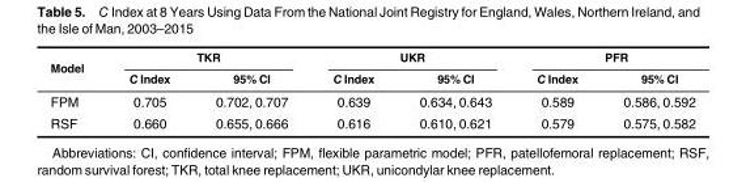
<table><thead><tr><td rowspan="2">Model</td><td colspan="2">TKR</td><td colspan="2">UKR</td><td colspan="2">PFR</td></tr><tr><td>C Index</td><td>95% CI</td><td>C Index</td><td>95% CI</td><td>C Index</td><td>95% CI</td></tr></thead><tbody><tr><td>FPM</td><td>0.705</td><td>0.702, 0.707</td><td>0.639</td><td>0.634, 0.643</td><td>0.589</td><td>0.586, 0.592</td></tr><tr><td>RSF</td><td>0.660</td><td>0.655, 0.666</td><td>0.616</td><td>0.610, 0.621</td><td>0.579</td><td>0.575, 0.582</td></tr></tbody></table>